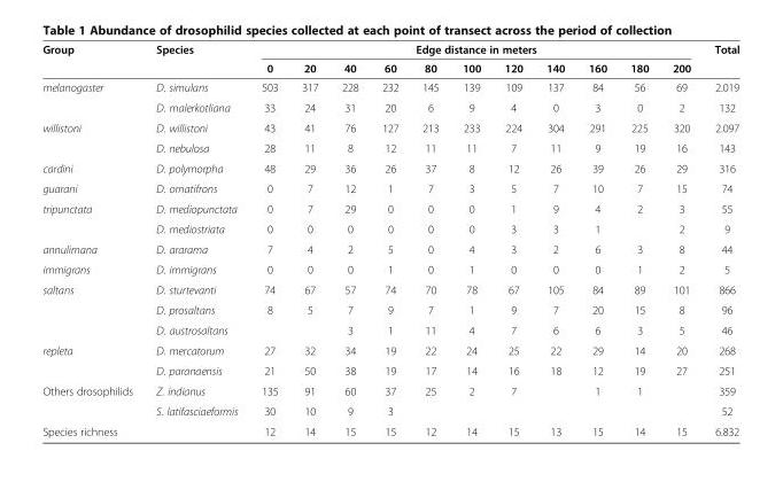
<table><thead><tr><td rowspan="2">Group</td><td rowspan="2">Species</td><td colspan="11">Edge distance in meters</td><td rowspan="2">Total</td></tr><tr><td>0</td><td>20</td><td>40</td><td>60</td><td>80</td><td>100</td><td>120</td><td>140</td><td>160</td><td>180</td><td>200</td></tr></thead><tbody><tr><td rowspan="2">melanogaster</td><td>D. simulans</td><td>503</td><td>317</td><td>228</td><td>232</td><td>145</td><td>139</td><td>109</td><td>137</td><td>84</td><td>56</td><td>69</td><td>2.019</td></tr><tr><td>D. malerkotliana</td><td>33</td><td>24</td><td>31</td><td>20</td><td>6</td><td>9</td><td>4</td><td>0</td><td>3</td><td>0</td><td>2</td><td>132</td></tr><tr><td rowspan="2">willistoni</td><td>D. willistoni</td><td>43</td><td>41</td><td>76</td><td>127</td><td>213</td><td>233</td><td>224</td><td>304</td><td>291</td><td>225</td><td>320</td><td>2.097</td></tr><tr><td>D. nebulosa</td><td>28</td><td>11</td><td>8</td><td>12</td><td>11</td><td>11</td><td>7</td><td>11</td><td>9</td><td>19</td><td>16</td><td>143</td></tr><tr><td>cardini</td><td>D. polymorpha</td><td>48</td><td>29</td><td>36</td><td>26</td><td>37</td><td>8</td><td>12</td><td>26</td><td>39</td><td>26</td><td>29</td><td>316</td></tr><tr><td>guarani</td><td>D. ornatifrons</td><td>0</td><td>7</td><td>12</td><td>1</td><td>7</td><td>3</td><td>5</td><td>7</td><td>10</td><td>7</td><td>15</td><td>74</td></tr><tr><td rowspan="2">tripunctata</td><td>D. mediopunctata</td><td>0</td><td>7</td><td>29</td><td>0</td><td>0</td><td>0</td><td>1</td><td>9</td><td>4</td><td>2</td><td>3</td><td>55</td></tr><tr><td>D. mediostriata</td><td>0</td><td>0</td><td>0</td><td>0</td><td>0</td><td>0</td><td>3</td><td>3</td><td>1</td><td></td><td>2</td><td>9</td></tr><tr><td>annulimana</td><td>D. ararama</td><td>7</td><td>4</td><td>2</td><td>5</td><td>0</td><td>4</td><td>3</td><td>2</td><td>6</td><td>3</td><td>8</td><td>44</td></tr><tr><td>immigrans</td><td>D. immigrans</td><td>0</td><td>0</td><td>0</td><td>1</td><td>0</td><td>1</td><td>0</td><td>0</td><td>0</td><td>1</td><td>2</td><td>5</td></tr><tr><td rowspan="3">saltans</td><td>D. sturtevanti</td><td>74</td><td>67</td><td>57</td><td>74</td><td>70</td><td>78</td><td>67</td><td>105</td><td>84</td><td>89</td><td>101</td><td>866</td></tr><tr><td>D. prosaltans</td><td>8</td><td>5</td><td>7</td><td>9</td><td>7</td><td>1</td><td>9</td><td>7</td><td>20</td><td>15</td><td>8</td><td>96</td></tr><tr><td>D. austrosaltans</td><td></td><td></td><td>3</td><td>1</td><td>11</td><td>4</td><td>7</td><td>6</td><td>6</td><td>3</td><td>5</td><td>46</td></tr><tr><td rowspan="2">repleta</td><td>D. mercatorum</td><td>27</td><td>32</td><td>34</td><td>19</td><td>22</td><td>24</td><td>25</td><td>22</td><td>29</td><td>14</td><td>20</td><td>268</td></tr><tr><td>D. paranaensis</td><td>21</td><td>50</td><td>38</td><td>19</td><td>17</td><td>14</td><td>16</td><td>18</td><td>12</td><td>19</td><td>27</td><td>251</td></tr><tr><td rowspan="2">Others drosophilids</td><td>Z. indianus</td><td>135</td><td>91</td><td>60</td><td>37</td><td>25</td><td>2</td><td>7</td><td></td><td>1</td><td>1</td><td></td><td>359</td></tr><tr><td>S. latifasciaeformis</td><td>30</td><td>10</td><td>9</td><td>3</td><td></td><td></td><td></td><td></td><td></td><td></td><td></td><td>52</td></tr><tr><td>Species richness</td><td></td><td>12</td><td>14</td><td>15</td><td>15</td><td>12</td><td>14</td><td>15</td><td>13</td><td>15</td><td>14</td><td>15</td><td>6.832</td></tr></tbody></table>